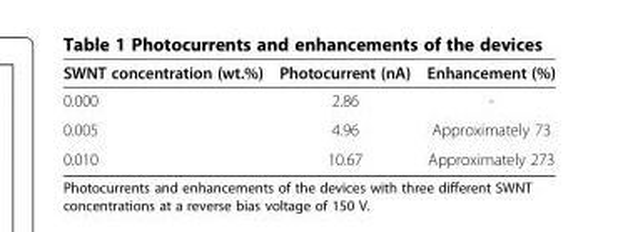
<table><thead><tr><td>SWNT concentration (wt.%)</td><td>Photocurrent (nA)</td><td>Enhancement (%)</td></tr></thead><tbody><tr><td>0.000</td><td>2.86</td><td>-</td></tr><tr><td>0.005</td><td>4.96</td><td>Approximately 73</td></tr><tr><td>0.010</td><td>10.67</td><td>Approximately 273</td></tr></tbody></table>